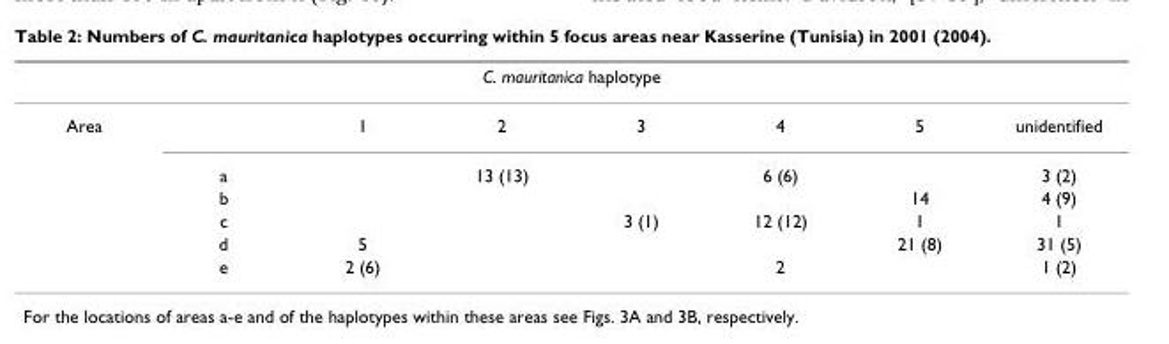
<table><thead><tr><td colspan="8">C. mauritanica haplotype</td></tr><tr><td>Area</td><td></td><td>1</td><td>2</td><td>3</td><td>4</td><td>5</td><td>unidentified</td></tr></thead><tbody><tr><td></td><td>a</td><td></td><td>13 (13)</td><td></td><td>6 (6)</td><td></td><td>3 (2)</td></tr><tr><td></td><td>b</td><td></td><td></td><td></td><td></td><td>14</td><td>4 (9)</td></tr><tr><td></td><td>c</td><td></td><td></td><td>3 (1)</td><td>12 (12)</td><td>1</td><td>1</td></tr><tr><td></td><td>d</td><td>5</td><td></td><td></td><td></td><td>21 (8)</td><td>31 (5)</td></tr><tr><td></td><td>e</td><td>2 (6)</td><td></td><td></td><td>2</td><td></td><td>1 (2)</td></tr></tbody></table>